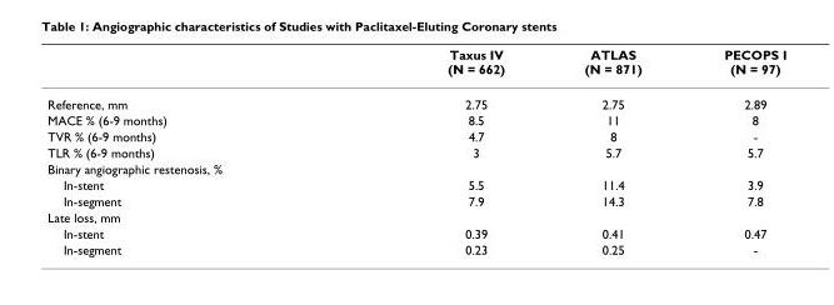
<table><thead><tr><td></td><td>Taxus IV (N = 662)</td><td>ATLAS (N = 871)</td><td>PECOPS I (N = 97)</td></tr></thead><tbody><tr><td>Reference, mm</td><td>2.75</td><td>2.75</td><td>2.89</td></tr><tr><td>MACE % (6-9 months)</td><td>8.5</td><td>11</td><td>8</td></tr><tr><td>TVR % (6-9 months)</td><td>4.7</td><td>8</td><td>-</td></tr><tr><td>TLR % (6-9 months)</td><td>3</td><td>5.7</td><td>5.7</td></tr><tr><td colspan="4">Binary angiographic restenosis, %</td></tr><tr><td>In-stent</td><td>5.5</td><td>11.4</td><td>3.9</td></tr><tr><td>In-segment</td><td>7.9</td><td>14.3</td><td>7.8</td></tr><tr><td colspan="4">Late loss, mm</td></tr><tr><td>In-stent</td><td>0.39</td><td>0.41</td><td>0.47</td></tr><tr><td>In-segment</td><td>0.23</td><td>0.25</td><td>-</td></tr></tbody></table>